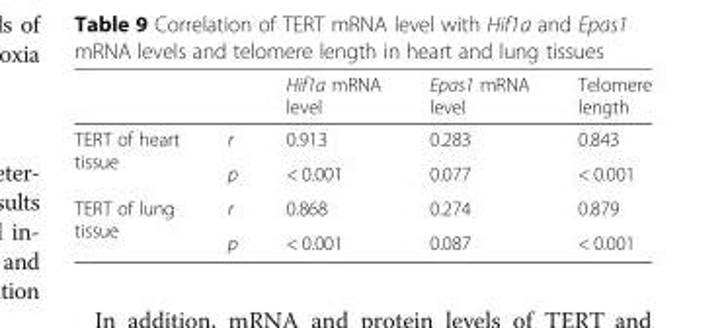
<table><thead><tr><td></td><td></td><td>Hif1a mRNA level</td><td>Epas1 mRNA level</td><td>Telomere length</td></tr></thead><tbody><tr><td rowspan="2">TERT of heart tissue</td><td>r</td><td>0.913</td><td>0.283</td><td>0.843</td></tr><tr><td>p</td><td>&lt; 0.001</td><td>0.077</td><td>&lt; 0.001</td></tr><tr><td rowspan="2">TERT of lung tissue</td><td>r</td><td>0.868</td><td>0.274</td><td>0.879</td></tr><tr><td>p</td><td>&lt; 0.001</td><td>0.087</td><td>&lt; 0.001</td></tr></tbody></table>